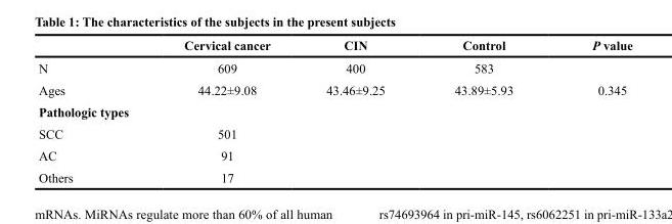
<table><thead><tr><td></td><td>Cervical cancer</td><td>CIN</td><td>Control</td><td>P value</td></tr></thead><tbody><tr><td>N</td><td>609</td><td>400</td><td>583</td><td></td></tr><tr><td>Ages</td><td>44.22±9.08</td><td>43.46±9.25</td><td>43.89±5.93</td><td>0.345</td></tr><tr><td colspan="5">Pathologic types</td></tr><tr><td>SCC</td><td>501</td><td></td><td></td><td></td></tr><tr><td>AC</td><td>91</td><td></td><td></td><td></td></tr><tr><td>Others</td><td>17</td><td></td><td></td><td></td></tr></tbody></table>